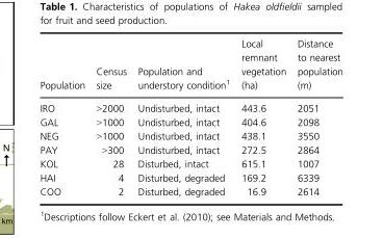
<table><thead><tr><td>Population</td><td>Census size</td><td>Population and understory condition1</td><td>Local remnant vegetation (ha)</td><td>Distance to nearest population (m)</td></tr></thead><tbody><tr><td>IRO</td><td>&gt;2000</td><td>Undisturbed, intact</td><td>443.6</td><td>2051</td></tr><tr><td>GAL</td><td>&gt;1000</td><td>Undisturbed, intact</td><td>404.6</td><td>2098</td></tr><tr><td>NEG</td><td>&gt;1000</td><td>Undisturbed, intact</td><td>438.1</td><td>3550</td></tr><tr><td>PAY</td><td>&gt;300</td><td>Undisturbed, intact</td><td>272.5</td><td>2864</td></tr><tr><td>KOL</td><td>28</td><td>Disturbed, intact</td><td>615.1</td><td>1007</td></tr><tr><td>HAI</td><td>4</td><td>Disturbed, degraded</td><td>169.2</td><td>6339</td></tr><tr><td>COO</td><td>2</td><td>Disturbed, degraded</td><td>16.9</td><td>2614</td></tr></tbody></table>